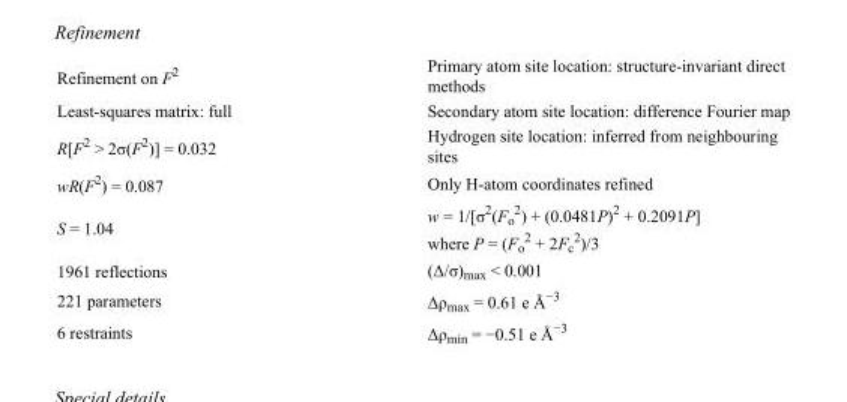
<table><tbody><tr><td>Refinement on F<sup>2</sup></td><td>Primary atom site location: structure-invariant direct methods</td></tr><tr><td>Least-squares matrix: full</td><td>Secondary atom site location: difference Fourier map</td></tr><tr><td>R[F<sup>2</sup> &gt; 2σ(F<sup>2</sup>)] = 0.032</td><td>Hydrogen site location: inferred from neighbouring sites</td></tr><tr><td>wR(F<sup>2</sup>) = 0.087</td><td>Only H-atom coordinates refined</td></tr><tr><td>S = 1.04</td><td>w = 1/[σ<sup>2</sup>(F<sub>o</sub> <sup>2</sup>) + (0.0481P)<sup>2</sup> + 0.2091P] where P = (F<sub>o</sub> <sup>2</sup> + 2F<sub>c</sub> <sup>2</sup>)/3</td></tr><tr><td>1961 reflections</td><td>(Δ/σ)<sub>max</sub> &lt; 0.001</td></tr><tr><td>221 parameters</td><td>Δρ<sub>max</sub> = 0.61 e Å<sup>−3</sup></td></tr><tr><td>6 restraints</td><td>Δρ<sub>min</sub> = −0.51 e Å<sup>−3</sup></td></tr></tbody></table>